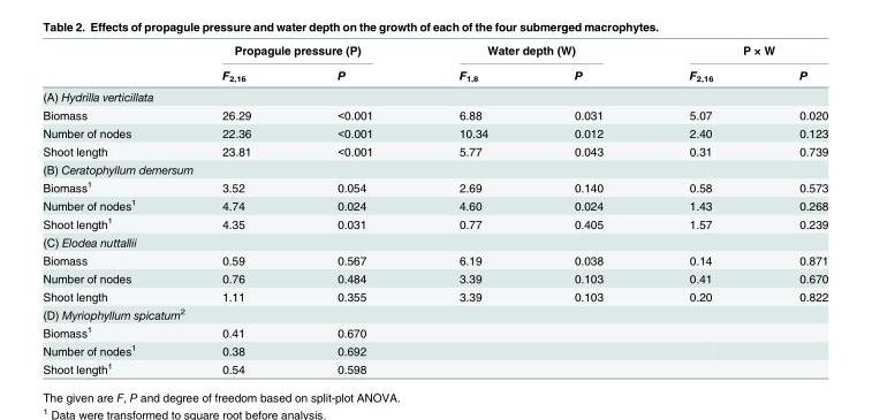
<table><thead><tr><td rowspan="2"></td><td colspan="2">Propagule pressure (P)</td><td colspan="2">Water depth (W)</td><td colspan="2">P × W</td></tr><tr><td>F<sub>2,16</sub></td><td>P</td><td>F<sub>1,8</sub></td><td>P</td><td>F<sub>2,16</sub></td><td>P</td></tr></thead><tbody><tr><td colspan="7">(A) Hydrilla verticillata</td></tr><tr><td>Biomass</td><td>26.29</td><td>&lt;0.001</td><td>6.88</td><td>0.031</td><td>5.07</td><td>0.020</td></tr><tr><td>Number of nodes</td><td>22.36</td><td>&lt;0.001</td><td>10.34</td><td>0.012</td><td>2.40</td><td>0.123</td></tr><tr><td>Shoot length</td><td>23.81</td><td>&lt;0.001</td><td>5.77</td><td>0.043</td><td>0.31</td><td>0.739</td></tr><tr><td colspan="7">(B) Ceratophyllum demersum</td></tr><tr><td>Biomass<sup>1</sup></td><td>3.52</td><td>0.054</td><td>2.69</td><td>0.140</td><td>0.58</td><td>0.573</td></tr><tr><td>Number of nodes<sup>1</sup></td><td>4.74</td><td>0.024</td><td>4.60</td><td>0.024</td><td>1.43</td><td>0.268</td></tr><tr><td>Shoot length<sup>1</sup></td><td>4.35</td><td>0.031</td><td>0.77</td><td>0.405</td><td>1.57</td><td>0.239</td></tr><tr><td colspan="7">(C) Elodea nuttallii</td></tr><tr><td>Biomass</td><td>0.59</td><td>0.567</td><td>6.19</td><td>0.038</td><td>0.14</td><td>0.871</td></tr><tr><td>Number of nodes</td><td>0.76</td><td>0.484</td><td>3.39</td><td>0.103</td><td>0.41</td><td>0.670</td></tr><tr><td>Shoot length</td><td>1.11</td><td>0.355</td><td>3.39</td><td>0.103</td><td>0.20</td><td>0.822</td></tr><tr><td colspan="7">(D) Myriophyllum spicatum<sup>2</sup></td></tr><tr><td>Biomass<sup>1</sup></td><td>0.41</td><td>0.670</td><td></td><td></td><td></td><td></td></tr><tr><td>Number of nodes<sup>1</sup></td><td>0.38</td><td>0.692</td><td></td><td></td><td></td><td></td></tr><tr><td>Shoot length<sup>1</sup></td><td>0.54</td><td>0.598</td><td></td><td></td><td></td><td></td></tr></tbody></table>